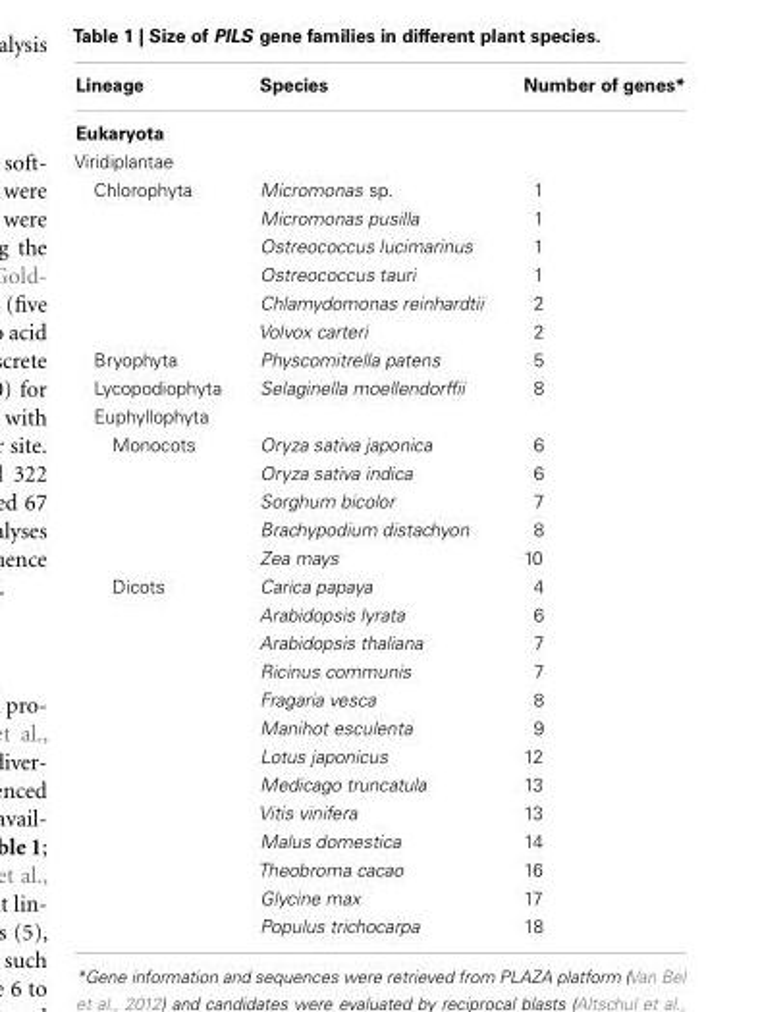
<table><thead><tr><td>Lineage</td><td>Species</td><td>Number of genes*</td></tr></thead><tbody><tr><td colspan="3">Eukaryota</td></tr><tr><td colspan="3">Viridiplantae</td></tr><tr><td rowspan="6">Chlorophyta</td><td>Micromonas sp.</td><td>1</td></tr><tr><td>Micromonas pusilla</td><td>1</td></tr><tr><td>Ostreococcus lucimarinus</td><td>1</td></tr><tr><td>Ostreococcus tauri</td><td>1</td></tr><tr><td>Chlamydomonas reinhardtii</td><td>2</td></tr><tr><td>Volvox carteri</td><td>2</td></tr><tr><td>Bryophyta</td><td>Physcomitrella patens</td><td>5</td></tr><tr><td>Lycopodiophyta</td><td>Selaginella moellendorffii</td><td>8</td></tr><tr><td colspan="3">Euphyllophyta</td></tr><tr><td rowspan="5">Monocots</td><td>Oryza sativa japonica</td><td>6</td></tr><tr><td>Oryza sativa indica</td><td>6</td></tr><tr><td>Sorghum bicolor</td><td>7</td></tr><tr><td>Brachypodium distachyon</td><td>8</td></tr><tr><td>Zea mays</td><td>10</td></tr><tr><td rowspan="13">Dicots</td><td>Carica papaya</td><td>4</td></tr><tr><td>Arabidopsis lyrata</td><td>6</td></tr><tr><td>Arabidopsis thaliana</td><td>7</td></tr><tr><td>Ricinus communis</td><td>7</td></tr><tr><td>Fragaria vesca</td><td>8</td></tr><tr><td>Manihot esculenta</td><td>9</td></tr><tr><td>Lotus japonicus</td><td>12</td></tr><tr><td>Medicago truncatula</td><td>13</td></tr><tr><td>Vitis vinifera</td><td>13</td></tr><tr><td>Malus domestica</td><td>14</td></tr><tr><td>Theobroma cacao</td><td>16</td></tr><tr><td>Glycine max</td><td>17</td></tr><tr><td>Populus trichocarpa</td><td>18</td></tr></tbody></table>